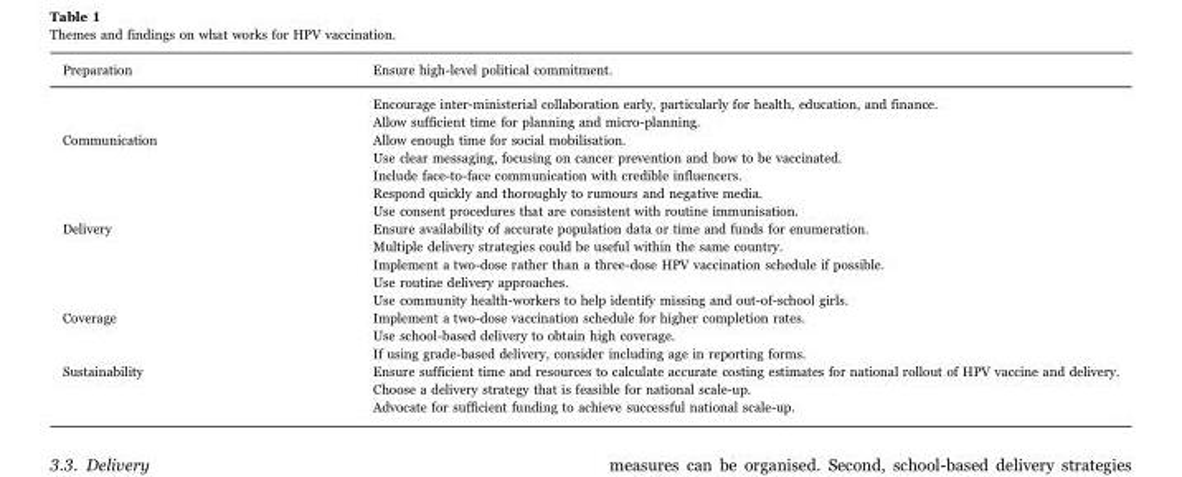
<table><thead><tr><td>Preparation</td><td>Ensure high-level political commitment.</td></tr></thead><tbody><tr><td></td><td>Encourage inter-ministerial collaboration early, particularly for health, education, and finance.</td></tr><tr><td></td><td>Allow sufficient time for planning and micro-planning.</td></tr><tr><td rowspan="5">Communication</td><td>Allow enough time for social mobilisation.</td></tr><tr><td>Use clear messaging, focusing on cancer prevention and how to be vaccinated.</td></tr><tr><td>Include face-to-face communication with credible influencers.</td></tr><tr><td>Respond quickly and thoroughly to rumours and negative media.</td></tr><tr><td>Use consent procedures that are consistent with routine immunisation.</td></tr><tr><td rowspan="5">Delivery</td><td>Ensure availability of accurate population data or time and funds for enumeration.</td></tr><tr><td>Multiple delivery strategies could be useful within the same country.</td></tr><tr><td>Implement a two-dose rather than a three-dose HPV vaccination schedule if possible.</td></tr><tr><td>Use routine delivery approaches.</td></tr><tr><td>Use community health-workers to help identify missing and out-of-school girls.</td></tr><tr><td rowspan="3">Coverage</td><td>Implement a two-dose vaccination schedule for higher completion rates.</td></tr><tr><td>Use school-based delivery to obtain high coverage.</td></tr><tr><td>If using grade-based delivery, consider including age in reporting forms.</td></tr><tr><td rowspan="3">Sustainability</td><td>Ensure sufficient time and resources to calculate accurate costing estimates for national rollout of HPV vaccine and delivery.</td></tr><tr><td>Choose a delivery strategy that is feasible for national scale-up.</td></tr><tr><td>Advocate for sufficient funding to achieve successful national scale-up.</td></tr></tbody></table>